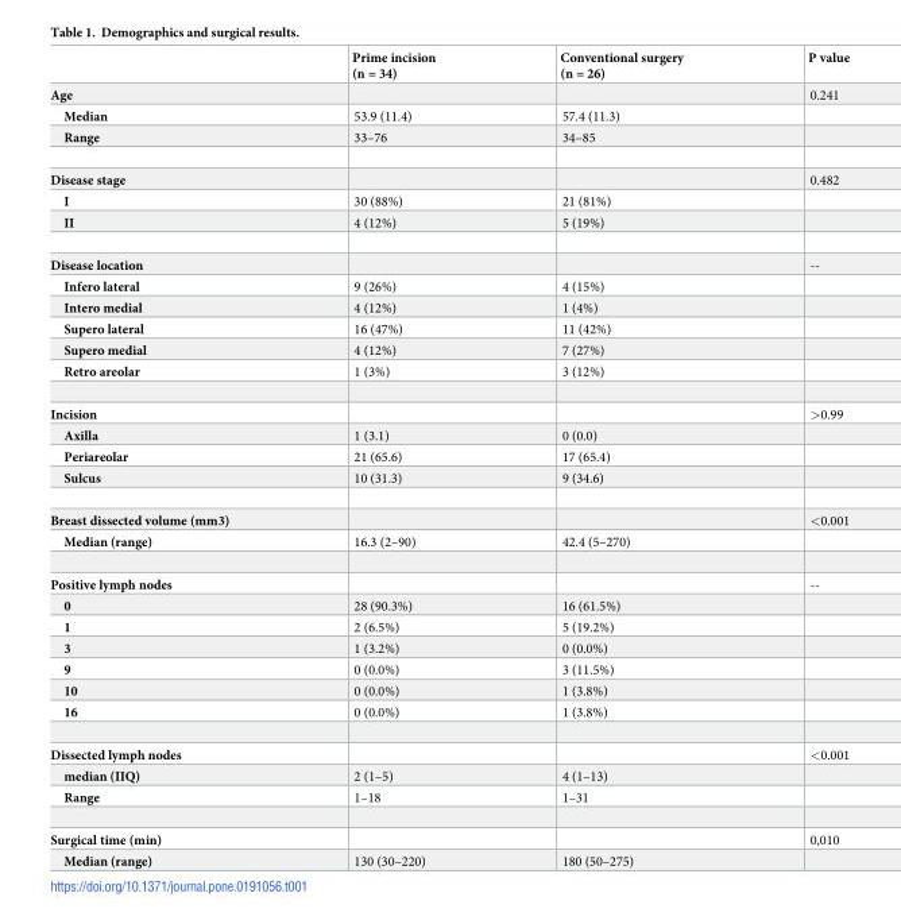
<table><thead><tr><td></td><td>Prime incision (n = 34)</td><td>Conventional surgery (n = 26)</td><td>P value</td></tr></thead><tbody><tr><td>Age</td><td></td><td></td><td>0.241</td></tr><tr><td>Median</td><td>53.9 (11.4)</td><td>57.4 (11.3)</td><td></td></tr><tr><td>Range</td><td>33–76</td><td>34–85</td><td></td></tr><tr><td>Disease stage</td><td></td><td></td><td>0.482</td></tr><tr><td>I</td><td>30 (88%)</td><td>21 (81%)</td><td></td></tr><tr><td>II</td><td>4 (12%)</td><td>5 (19%)</td><td></td></tr><tr><td>Disease location</td><td></td><td></td><td>--</td></tr><tr><td>Infero lateral</td><td>9 (26%)</td><td>4 (15%)</td><td></td></tr><tr><td>Intero medial</td><td>4 (12%)</td><td>1 (4%)</td><td></td></tr><tr><td>Supero lateral</td><td>16 (47%)</td><td>11 (42%)</td><td></td></tr><tr><td>Supero medial</td><td>4 (12%)</td><td>7 (27%)</td><td></td></tr><tr><td>Retro areolar</td><td>1 (3%)</td><td>3 (12%)</td><td></td></tr><tr><td>Incision</td><td></td><td></td><td>&gt;0.99</td></tr><tr><td>Axilla</td><td>1 (3.1)</td><td>0 (0.0)</td><td></td></tr><tr><td>Periareolar</td><td>21 (65.6)</td><td>17 (65.4)</td><td></td></tr><tr><td>Sulcus</td><td>10 (31.3)</td><td>9 (34.6)</td><td></td></tr><tr><td>Breast dissected volume (mm3)</td><td></td><td></td><td>&lt;0.001</td></tr><tr><td>Median (range)</td><td>16.3 (2–90)</td><td>42.4 (5–270)</td><td></td></tr><tr><td>Positive lymph nodes</td><td></td><td></td><td>--</td></tr><tr><td>0</td><td>28 (90.3%)</td><td>16 (61.5%)</td><td></td></tr><tr><td>1</td><td>2 (6.5%)</td><td>5 (19.2%)</td><td></td></tr><tr><td>3</td><td>1 (3.2%)</td><td>0 (0.0%)</td><td></td></tr><tr><td>9</td><td>0 (0.0%)</td><td>3 (11.5%)</td><td></td></tr><tr><td>10</td><td>0 (0.0%)</td><td>1 (3.8%)</td><td></td></tr><tr><td>16</td><td>0 (0.0%)</td><td>1 (3.8%)</td><td></td></tr><tr><td>Dissected lymph nodes</td><td></td><td></td><td>&lt;0.001</td></tr><tr><td>median (IIQ)</td><td>2 (1–5)</td><td>4 (1–13)</td><td></td></tr><tr><td>Range</td><td>1–18</td><td>1–31</td><td></td></tr><tr><td>Surgical time (min)</td><td></td><td></td><td>0,010</td></tr><tr><td>Median (range)</td><td>130 (30–220)</td><td>180 (50–275)</td><td></td></tr></tbody></table>